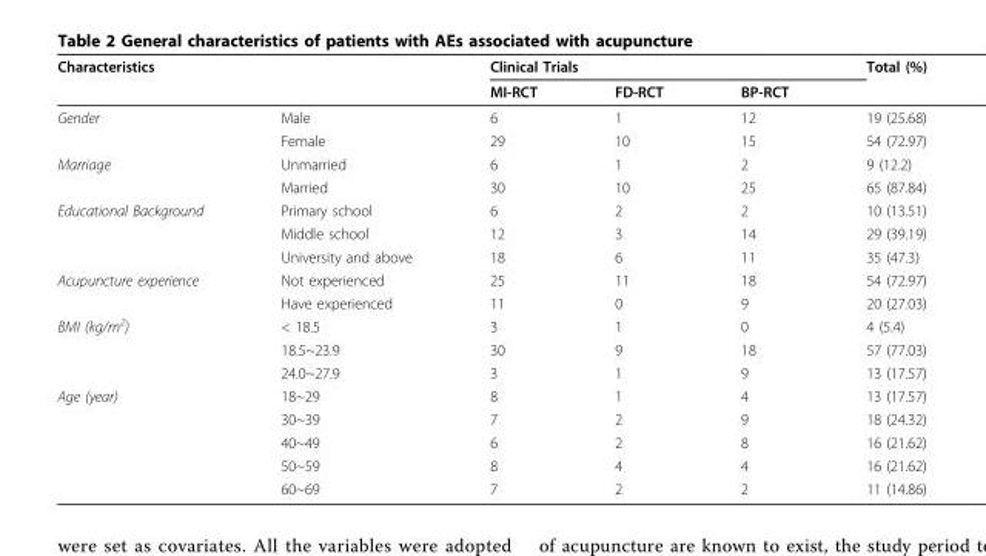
<table><thead><tr><td rowspan="2">Characteristics</td><td rowspan="2"></td><td colspan="3">Clinical Trials</td><td rowspan="2">Total (%)</td></tr><tr><td>MI-RCT</td><td>FD-RCT</td><td>BP-RCT</td></tr></thead><tbody><tr><td rowspan="2">Gender</td><td>Male</td><td>6</td><td>1</td><td>12</td><td>19 (25.68)</td></tr><tr><td>Female</td><td>29</td><td>10</td><td>15</td><td>54 (72.97)</td></tr><tr><td rowspan="2">Marriage</td><td>Unmarried</td><td>6</td><td>1</td><td>2</td><td>9 (12.2)</td></tr><tr><td>Married</td><td>30</td><td>10</td><td>25</td><td>65 (87.84)</td></tr><tr><td rowspan="3">Educational Background</td><td>Primary school</td><td>6</td><td>2</td><td>2</td><td>10 (13.51)</td></tr><tr><td>Middle school</td><td>12</td><td>3</td><td>14</td><td>29 (39.19)</td></tr><tr><td>University and above</td><td>18</td><td>6</td><td>11</td><td>35 (47.3)</td></tr><tr><td rowspan="2">Acupuncture experience</td><td>Not experienced</td><td>25</td><td>11</td><td>18</td><td>54 (72.97)</td></tr><tr><td>Have experienced</td><td>11</td><td>0</td><td>9</td><td>20 (27.03)</td></tr><tr><td rowspan="3">BMI (kg/m<sup>2</sup>)</td><td>&lt; 18.5</td><td>3</td><td>1</td><td>0</td><td>4 (5.4)</td></tr><tr><td>18.5~23.9</td><td>30</td><td>9</td><td>18</td><td>57 (77.03)</td></tr><tr><td>24.0~27.9</td><td>3</td><td>1</td><td>9</td><td>13 (17.57)</td></tr><tr><td rowspan="5">Age (year)</td><td>18~29</td><td>8</td><td>1</td><td>4</td><td>13 (17.57)</td></tr><tr><td>30~39</td><td>7</td><td>2</td><td>9</td><td>18 (24.32)</td></tr><tr><td>40~49</td><td>6</td><td>2</td><td>8</td><td>16 (21.62)</td></tr><tr><td>50~59</td><td>8</td><td>4</td><td>4</td><td>16 (21.62)</td></tr><tr><td>60~69</td><td>7</td><td>2</td><td>2</td><td>11 (14.86)</td></tr></tbody></table>